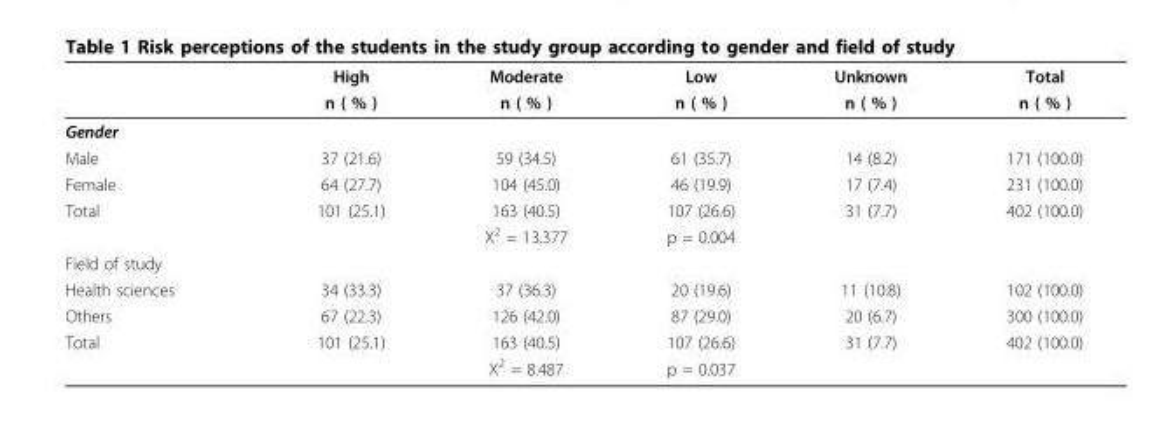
<table><thead><tr><td rowspan="2"></td><td rowspan="2">High n ( % )</td><td rowspan="2">Moderate n ( % )</td><td rowspan="2">Low n ( % )</td><td rowspan="2">Unknown n ( % )</td><td rowspan="2">Total n ( % )</td></tr><tr></tr></thead><tbody><tr><td colspan="6">Gender</td></tr><tr><td>Male</td><td>37 (21.6)</td><td>59 (34.5)</td><td>61 (35.7)</td><td>14 (8.2)</td><td>171 (100.0)</td></tr><tr><td>Female</td><td>64 (27.7)</td><td>104 (45.0)</td><td>46 (19.9)</td><td>17 (7.4)</td><td>231 (100.0)</td></tr><tr><td rowspan="2">Total</td><td>101 (25.1)</td><td>163 (40.5)</td><td>107 (26.6)</td><td>31 (7.7)</td><td>402 (100.0)</td></tr><tr><td></td><td>X<sup>2</sup> = 13.377</td><td>p = 0.004</td><td></td><td></td></tr><tr><td colspan="6">Field of study</td></tr><tr><td>Health sciences</td><td>34 (33.3)</td><td>37 (36.3)</td><td>20 (19.6)</td><td>11 (10.8)</td><td>102 (100.0)</td></tr><tr><td>Others</td><td>67 (22.3)</td><td>126 (42.0)</td><td>87 (29.0)</td><td>20 (6.7)</td><td>300 (100.0)</td></tr><tr><td rowspan="2">Total</td><td>101 (25.1)</td><td>163 (40.5)</td><td>107 (26.6)</td><td>31 (7.7)</td><td>402 (100.0)</td></tr><tr><td></td><td>X<sup>2</sup> = 8.487</td><td>p = 0.037</td><td></td><td></td></tr></tbody></table>